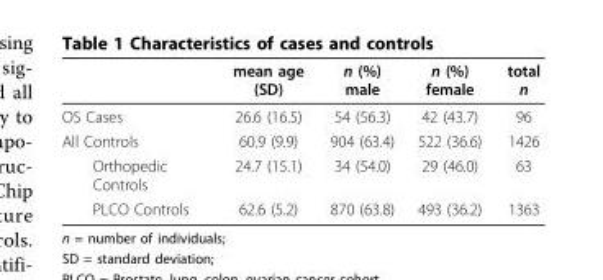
<table><thead><tr><td></td><td>mean age (SD)</td><td>n (%) male</td><td>n (%) female</td><td>total n</td></tr></thead><tbody><tr><td>OS Cases</td><td>26.6 (16.5)</td><td>54 (56.3)</td><td>42 (43.7)</td><td>96</td></tr><tr><td>All Controls</td><td>60.9 (9.9)</td><td>904 (63.4)</td><td>522 (36.6)</td><td>1426</td></tr><tr><td>Orthopedic Controls</td><td>24.7 (15.1)</td><td>34 (54.0)</td><td>29 (46.0)</td><td>63</td></tr><tr><td>PLCO Controls</td><td>62.6 (5.2)</td><td>870 (63.8)</td><td>493 (36.2)</td><td>1363</td></tr></tbody></table>